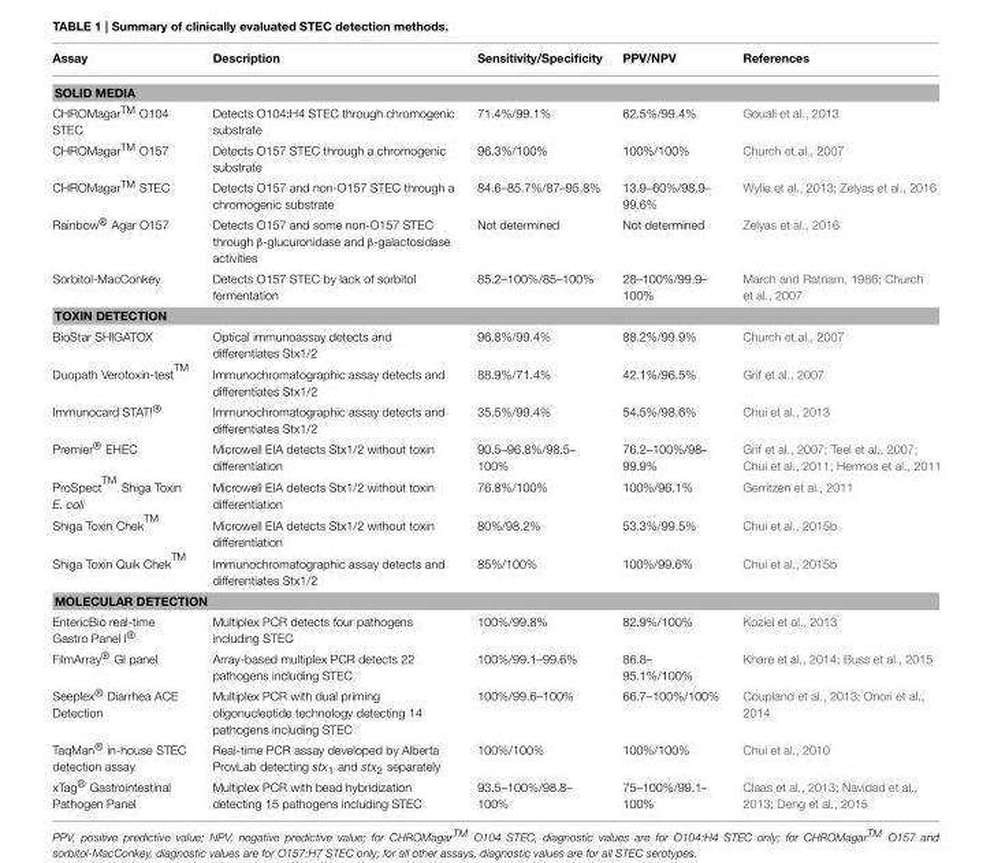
<table><thead><tr><td>Assay</td><td>Description</td><td>Sensitivity/Specificity</td><td>PPV/NPV</td><td>References</td></tr></thead><tbody><tr><td colspan="5">SOLID MEDIA</td></tr><tr><td>CHROMagarTM O104 STEC</td><td>Detects O104:H4 STEC through chromogenic substrate</td><td>71.4%/99.1%</td><td>62.5%/99.4%</td><td>Gouali et al., 2013</td></tr><tr><td>CHROMagarTM O157</td><td>Detects O157 STEC through a chromogenic substrate</td><td>96.3%/100%</td><td>100%/100%</td><td>Church et al., 2007</td></tr><tr><td>CHROMagarTM STEC</td><td>Detects O157 and non-O157 STEC through a chromogenic substrate</td><td>84.6–85.7%/87–95.8%</td><td>13.9–60%/98.9– 99.6%</td><td>Wylie et al., 2013; Zelyas et al., 2016</td></tr><tr><td>Rainbow® Agar O157</td><td>Detects O157 and some non-O157 STEC through β-glucuronidase and β-galactosidase activities</td><td>Not determined</td><td>Not determined</td><td>Zelyas et al., 2016</td></tr><tr><td>Sorbitol-MacConkey</td><td>Detects O157 STEC by lack of sorbitol fermentation</td><td>85.2–100%/85–100%</td><td>28–100%/99.9– 100%</td><td>March and Ratnam, 1986; Church et al., 2007</td></tr><tr><td colspan="5">TOXIN DETECTION</td></tr><tr><td>BioStar SHIGATOX</td><td>Optical immunoassay detects and differentiates Stx1/2</td><td>96.8%/99.4%</td><td>88.2%/99.9%</td><td>Church et al., 2007</td></tr><tr><td>Duopath Verotoxin-testTM</td><td>Immunochromatographic assay detects and differentiates Stx1/2</td><td>88.9%/71.4%</td><td>42.1%/96.5%</td><td>Grif et al., 2007</td></tr><tr><td>Immunocard STAT!®</td><td>Immunochromatographic assay detects and differentiates Stx1/2</td><td>35.5%/99.4%</td><td>54.5%/98.6%</td><td>Chui et al., 2013</td></tr><tr><td>Premier® EHEC</td><td>Microwell EIA detects Stx1/2 without toxin differentiation</td><td>90.5–96.8%/98.5– 100%</td><td>76.2–100%/98– 99.9%</td><td>Grif et al., 2007; Teel et al., 2007; Chui et al., 2011; Hermos et al., 2011</td></tr><tr><td>ProSpectTM Shiga Toxin E. coli</td><td>Microwell EIA detects Stx1/2 without toxin differentiation</td><td>76.8%/100%</td><td>100%/96.1%</td><td>Gerritzen et al., 2011</td></tr><tr><td>Shiga Toxin ChekTM</td><td>Microwell EIA detects Stx1/2 without toxin differentiation</td><td>80%/98.2%</td><td>53.3%/99.5%</td><td>Chui et al., 2015b</td></tr><tr><td>Shiga Toxin Quik ChekTM</td><td>Immunochromatographic assay detects and differentiates Stx1/2</td><td>85%/100%</td><td>100%/99.6%</td><td>Chui et al., 2015b</td></tr><tr><td colspan="5">MOLECULAR DETECTION</td></tr><tr><td>EntericBio real-time Gastro Panel I®</td><td>Multiplex PCR detects four pathogens including STEC</td><td>100%/99.8%</td><td>82.9%/100%</td><td>Koziel et al., 2013</td></tr><tr><td>FilmArray® GI panel</td><td>Array-based multiplex PCR detects 22 pathogens including STEC</td><td>100%/99.1–99.6%</td><td>86.8– 95.1%/100%</td><td>Khare et al., 2014; Buss et al., 2015</td></tr><tr><td>Seeplex® Diarrhea ACE Detection</td><td>Multiplex PCR with dual priming oligonucleotide technology detecting 14 pathogens including STEC</td><td>100%/99.6–100%</td><td>66.7–100%/100%</td><td>Coupland et al., 2013; Onori et al., 2014</td></tr><tr><td>TaqMan® in-house STEC detection assay</td><td>Real-time PCR assay developed by Alberta ProvLab detecting stx<sub>1</sub> and stx<sub>2</sub> separately</td><td>100%/100%</td><td>100%/100%</td><td>Chui et al., 2010</td></tr><tr><td>xTag® Gastrointestinal Pathogen Panel</td><td>Multiplex PCR with bead hybridization detecting 15 pathogens including STEC</td><td>93.5–100%/98.8– 100%</td><td>75–100%/99.1– 100%</td><td>Claas et al., 2013; Navidad et al., 2013; Deng et al., 2015</td></tr></tbody></table>